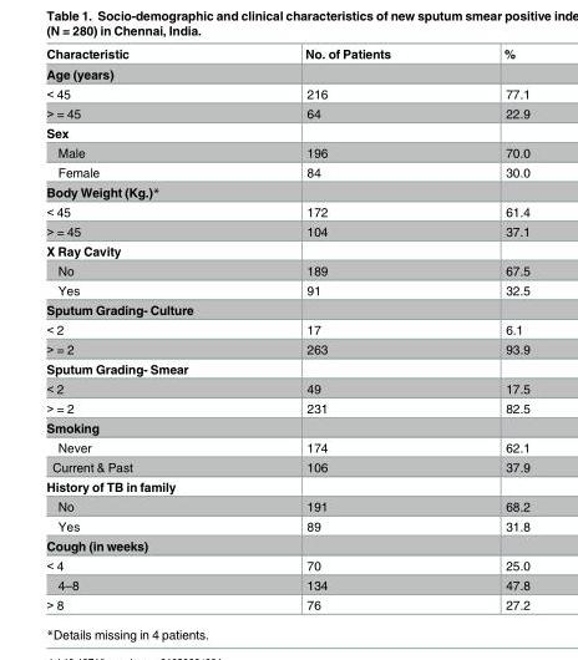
<table><thead><tr><td>Characteristic</td><td>No. of Patients</td><td>%</td></tr></thead><tbody><tr><td colspan="3">Age (years)</td></tr><tr><td>&lt; 45</td><td>216</td><td>77.1</td></tr><tr><td>&gt; = 45</td><td>64</td><td>22.9</td></tr><tr><td colspan="3">Sex</td></tr><tr><td>Male</td><td>196</td><td>70.0</td></tr><tr><td>Female</td><td>84</td><td>30.0</td></tr><tr><td colspan="3">Body Weight (Kg.)*</td></tr><tr><td>&lt; 45</td><td>172</td><td>61.4</td></tr><tr><td>&gt; = 45</td><td>104</td><td>37.1</td></tr><tr><td colspan="3">X Ray Cavity</td></tr><tr><td>No</td><td>189</td><td>67.5</td></tr><tr><td>Yes</td><td>91</td><td>32.5</td></tr><tr><td colspan="3">Sputum Grading- Culture</td></tr><tr><td>&lt; 2</td><td>17</td><td>6.1</td></tr><tr><td>&gt; = 2</td><td>263</td><td>93.9</td></tr><tr><td colspan="3">Sputum Grading- Smear</td></tr><tr><td>&lt; 2</td><td>49</td><td>17.5</td></tr><tr><td>&gt; = 2</td><td>231</td><td>82.5</td></tr><tr><td colspan="3">Smoking</td></tr><tr><td>Never</td><td>174</td><td>62.1</td></tr><tr><td>Current &amp; Past</td><td>106</td><td>37.9</td></tr><tr><td colspan="3">History of TB in family</td></tr><tr><td>No</td><td>191</td><td>68.2</td></tr><tr><td>Yes</td><td>89</td><td>31.8</td></tr><tr><td colspan="3">Cough (in weeks)</td></tr><tr><td>&lt; 4</td><td>70</td><td>25.0</td></tr><tr><td>4–8</td><td>134</td><td>47.8</td></tr><tr><td>&gt; 8</td><td>76</td><td>27.2</td></tr></tbody></table>